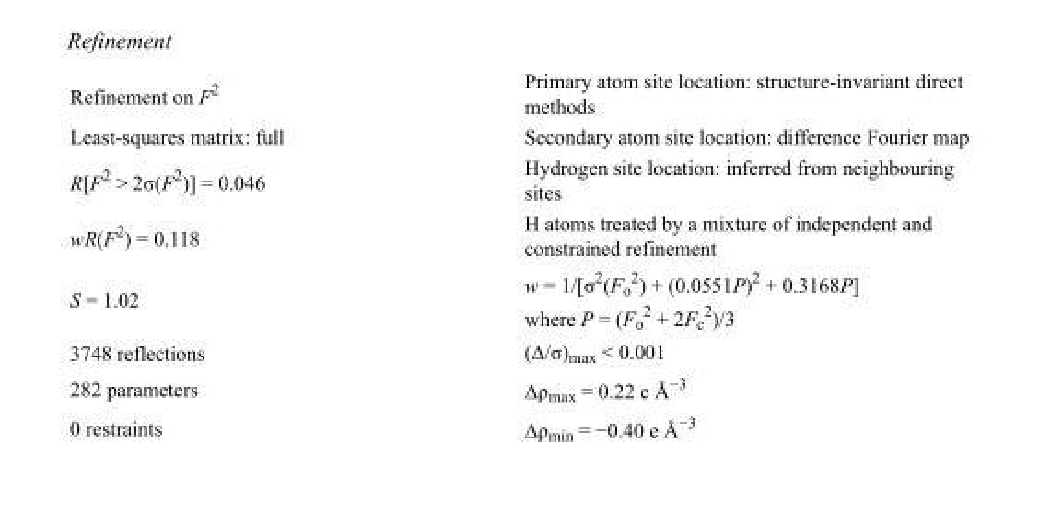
<table><tbody><tr><td>Refinement on F<sup>2</sup></td><td>Primary atom site location: structure-invariant direct methods</td></tr><tr><td>Least-squares matrix: full</td><td>Secondary atom site location: difference Fourier map</td></tr><tr><td>R[F<sup>2</sup> &gt; 2σ(F<sup>2</sup>)] = 0.046</td><td>Hydrogen site location: inferred from neighbouring sites</td></tr><tr><td>wR(F<sup>2</sup>) = 0.118</td><td>H atoms treated by a mixture of independent and constrained refinement</td></tr><tr><td>S = 1.02</td><td>w = 1/[σ<sup>2</sup>(F<sub>o</sub> <sup>2</sup>) + (0.0551P)<sup>2</sup> + 0.3168P] where P = (F<sub>o</sub> <sup>2</sup> + 2F<sub>c</sub> <sup>2</sup>)/3</td></tr><tr><td>3748 reflections</td><td>(Δ/σ)<sub>max</sub> &lt; 0.001</td></tr><tr><td>282 parameters</td><td>Δρ<sub>max</sub> = 0.22 e Å<sup>−3</sup></td></tr><tr><td>0 restraints</td><td>Δρ<sub>min</sub> = −0.40 e Å<sup>−3</sup></td></tr></tbody></table>